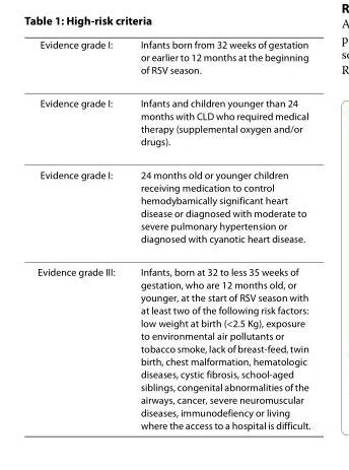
<table><thead><tr><td>Evidence grade I:</td><td>Infants born from 32 weeks of gestation or earlier to 12 months at the beginning of RSV season.</td></tr></thead><tbody><tr><td>Evidence grade I:</td><td>Infants and children younger than 24 months with CLD who required medical therapy (supplemental oxygen and/or drugs).</td></tr><tr><td>Evidence grade I:</td><td>24 months old or younger children receiving medication to control hemodybamically significant heart disease or diagnosed with moderate to severe pulmonary hypertension or diagnosed with cyanotic heart disease.</td></tr><tr><td>Evidence grade III:</td><td>Infants, born at 32 to less 35 weeks of gestation, who are 12 months old, or younger, at the start of RSV season with at least two of the following risk factors: low weight at birth (&lt;2.5 Kg), exposure to environmental air pollutants or tobacco smoke, lack of breast-feed, twin birth, chest malformation, hematologic diseases, cystic fibrosis, school-aged siblings, congenital abnormalities of the airways, cancer, severe neuromuscular diseases, immunodefiency or living where the access to a hospital is difficult.</td></tr></tbody></table>